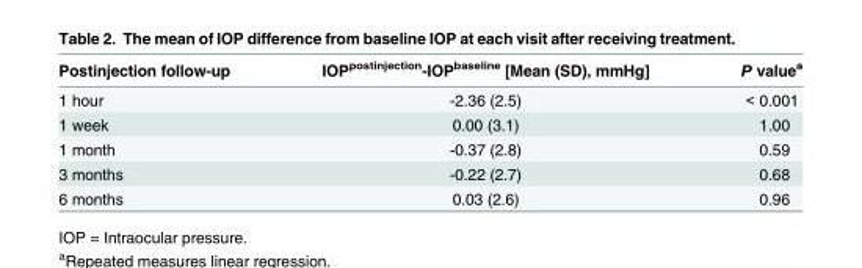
<table><thead><tr><td>Postinjection follow-up</td><td>IOP<sup>postinjection</sup>-IOP<sup>baseline</sup> [Mean (SD), mmHg]</td><td>P value<sup>a</sup></td></tr></thead><tbody><tr><td>1 hour</td><td>-2.36 (2.5)</td><td>&lt; 0.001</td></tr><tr><td>1 week</td><td>0.00 (3.1)</td><td>1.00</td></tr><tr><td>1 month</td><td>-0.37 (2.8)</td><td>0.59</td></tr><tr><td>3 months</td><td>-0.22 (2.7)</td><td>0.68</td></tr><tr><td>6 months</td><td>0.03 (2.6)</td><td>0.96</td></tr></tbody></table>